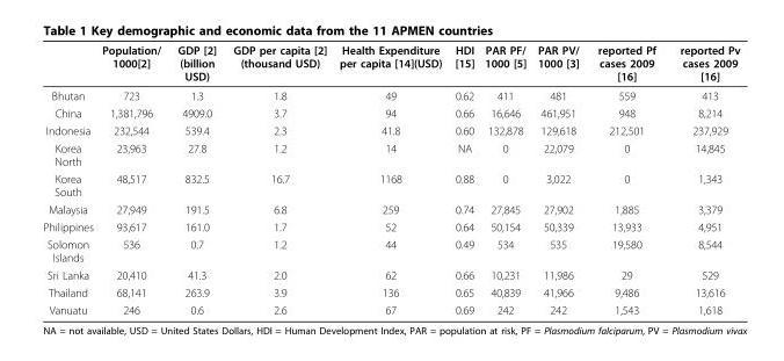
<table><thead><tr><td></td><td>Population/ 1000[2]</td><td>GDP [2] (billion USD)</td><td>GDP per capita [2] (thousand USD)</td><td>Health Expenditure per capita [14](USD)</td><td>HDI [15]</td><td>PAR PF/ 1000 [5]</td><td>PAR PV/ 1000 [3]</td><td>reported Pf cases 2009 [16]</td><td>reported Pv cases 2009 [16]</td></tr></thead><tbody><tr><td>Bhutan</td><td>723</td><td>1.3</td><td>1.8</td><td>49</td><td>0.62</td><td>411</td><td>481</td><td>559</td><td>413</td></tr><tr><td>China</td><td>1,381,796</td><td>4909.0</td><td>3.7</td><td>94</td><td>0.66</td><td>16,646</td><td>461,951</td><td>948</td><td>8,214</td></tr><tr><td>Indonesia</td><td>232,544</td><td>539.4</td><td>2.3</td><td>41.8</td><td>0.60</td><td>132,878</td><td>129,618</td><td>212,501</td><td>237,929</td></tr><tr><td>Korea North</td><td>23,963</td><td>27.8</td><td>1.2</td><td>14</td><td>NA</td><td>0</td><td>22,079</td><td>0</td><td>14,845</td></tr><tr><td>Korea South</td><td>48,517</td><td>832.5</td><td>16.7</td><td>1168</td><td>0.88</td><td>0</td><td>3,022</td><td>0</td><td>1,343</td></tr><tr><td>Malaysia</td><td>27,949</td><td>191.5</td><td>6.8</td><td>259</td><td>0.74</td><td>27,845</td><td>27,902</td><td>1,885</td><td>3,379</td></tr><tr><td>Philippines</td><td>93,617</td><td>161.0</td><td>1.7</td><td>52</td><td>0.64</td><td>50,154</td><td>50,339</td><td>13,933</td><td>4,951</td></tr><tr><td>Solomon Islands</td><td>536</td><td>0.7</td><td>1.2</td><td>44</td><td>0.49</td><td>534</td><td>535</td><td>19,580</td><td>8,544</td></tr><tr><td>Sri Lanka</td><td>20,410</td><td>41.3</td><td>2.0</td><td>62</td><td>0.66</td><td>10,231</td><td>11,986</td><td>29</td><td>529</td></tr><tr><td>Thailand</td><td>68,141</td><td>263.9</td><td>3.9</td><td>136</td><td>0.65</td><td>40,839</td><td>41,966</td><td>9,486</td><td>13,616</td></tr><tr><td>Vanuatu</td><td>246</td><td>0.6</td><td>2.6</td><td>67</td><td>0.69</td><td>242</td><td>242</td><td>1,543</td><td>1,618</td></tr></tbody></table>